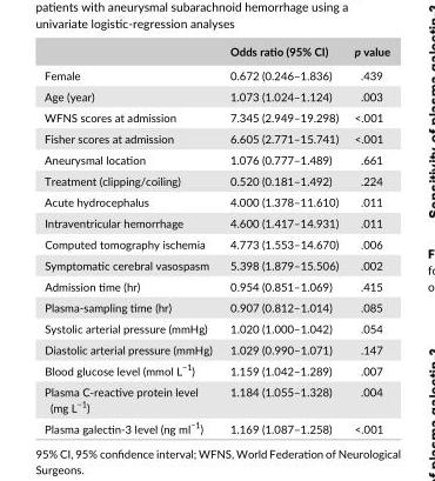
<table><thead><tr><td></td><td>Odds ratio (95% CI)</td><td>p value</td></tr></thead><tbody><tr><td>Female</td><td>0.672 (0.246–1.836)</td><td>.439</td></tr><tr><td>Age (year)</td><td>1.073 (1.024–1.124)</td><td>.003</td></tr><tr><td>WFNS scores at admission</td><td>7.345 (2.949–19.298)</td><td>&lt;.001</td></tr><tr><td>Fisher scores at admission</td><td>6.605 (2.771–15.741)</td><td>&lt;.001</td></tr><tr><td>Aneurysmal location</td><td>1.076 (0.777–1.489)</td><td>.661</td></tr><tr><td>Treatment (clipping/coiling)</td><td>0.520 (0.181–1.492)</td><td>.224</td></tr><tr><td>Acute hydrocephalus</td><td>4.000 (1.378–11.610)</td><td>.011</td></tr><tr><td>Intraventricular hemorrhage</td><td>4.600 (1.417–14.931)</td><td>.011</td></tr><tr><td>Computed tomography ischemia</td><td>4.773 (1.553–14.670)</td><td>.006</td></tr><tr><td>Symptomatic cerebral vasospasm</td><td>5.398 (1.879–15.506)</td><td>.002</td></tr><tr><td>Admission time (hr)</td><td>0.954 (0.851–1.069)</td><td>.415</td></tr><tr><td>Plasma- sampling time (hr)</td><td>0.907 (0.812–1.014)</td><td>.085</td></tr><tr><td>Systolic arterial pressure (mmHg)</td><td>1.020 (1.000–1.042)</td><td>.054</td></tr><tr><td>Diastolic arterial pressure (mmHg)</td><td>1.029 (0.990–1.071)</td><td>.147</td></tr><tr><td>Blood glucose level (mmol L<sup>−1</sup>)</td><td>1.159 (1.042–1.289)</td><td>.007</td></tr><tr><td>Plasma C- reactive protein level (mg L<sup>−1</sup>)</td><td>1.184 (1.055–1.328)</td><td>.004</td></tr><tr><td>Plasma galectin- 3 level (ng ml<sup>−1</sup>)</td><td>1.169 (1.087–1.258)</td><td>&lt;.001</td></tr></tbody></table>